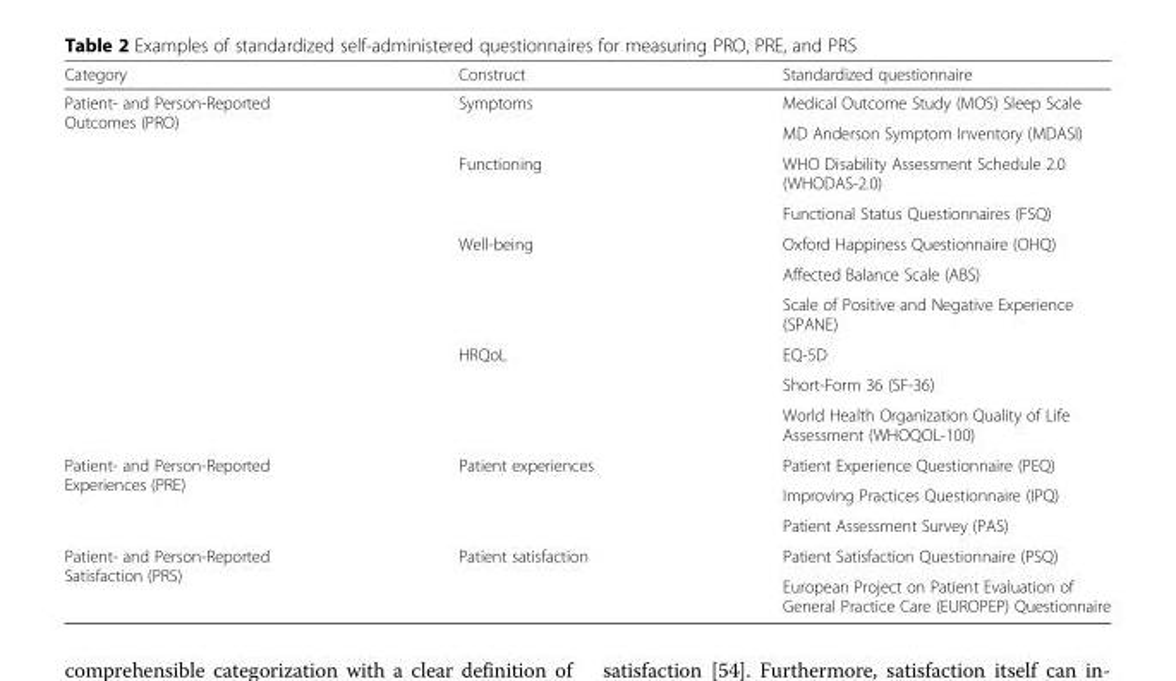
<table><thead><tr><td>Category</td><td>Construct</td><td>Standardized questionnaire</td></tr></thead><tbody><tr><td rowspan="10">Patient- and Person-Reported Outcomes (PRO)</td><td rowspan="2">Symptoms</td><td>Medical Outcome Study (MOS) Sleep Scale</td></tr><tr><td>MD Anderson Symptom Inventory (MDASI)</td></tr><tr><td rowspan="2">Functioning</td><td>WHO Disability Assessment Schedule 2.0 (WHODAS-2.0)</td></tr><tr><td>Functional Status Questionnaires (FSQ)</td></tr><tr><td rowspan="3">Well-being</td><td>Oxford Happiness Questionnaire (OHQ)</td></tr><tr><td>Affected Balance Scale (ABS)</td></tr><tr><td>Scale of Positive and Negative Experience (SPANE)</td></tr><tr><td rowspan="3">HRQoL</td><td>EQ-5D</td></tr><tr><td>Short-Form 36 (SF-36)</td></tr><tr><td>World Health Organization Quality of Life Assessment (WHOQOL-100)</td></tr><tr><td rowspan="3">Patient- and Person-Reported Experiences (PRE)</td><td rowspan="3">Patient experiences</td><td>Patient Experience Questionnaire (PEQ)</td></tr><tr><td>Improving Practices Questionnaire (IPQ)</td></tr><tr><td>Patient Assessment Survey (PAS)</td></tr><tr><td rowspan="2">Patient- and Person-Reported Satisfaction (PRS)</td><td rowspan="2">Patient satisfaction</td><td>Patient Satisfaction Questionnaire (PSQ)</td></tr><tr><td>European Project on Patient Evaluation of General Practice Care (EUROPEP) Questionnaire</td></tr></tbody></table>